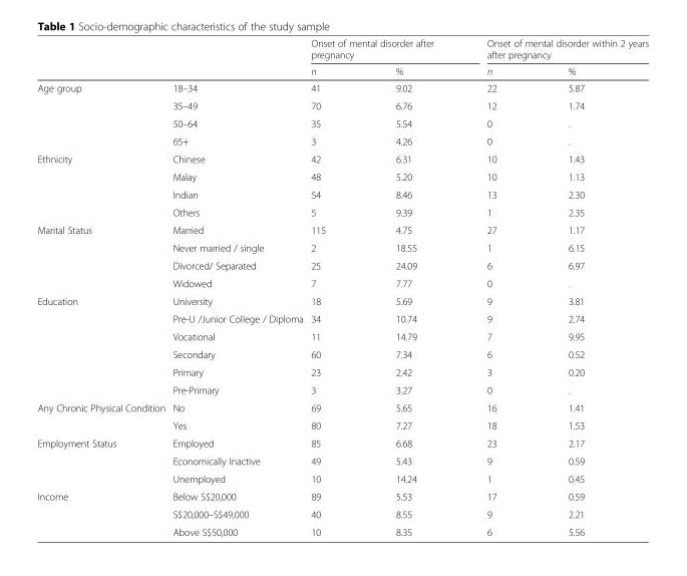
<table><thead><tr><td rowspan="2"></td><td rowspan="2"></td><td colspan="2">Onset of mental disorder after pregnancy</td><td colspan="2">Onset of mental disorder within 2 years after pregnancy</td></tr><tr><td>n</td><td>%</td><td>n</td><td>%</td></tr></thead><tbody><tr><td rowspan="4">Age group</td><td>18–34</td><td>41</td><td>9.02</td><td>22</td><td>5.87</td></tr><tr><td>35–49</td><td>70</td><td>6.76</td><td>12</td><td>1.74</td></tr><tr><td>50–64</td><td>35</td><td>5.54</td><td>0</td><td>.</td></tr><tr><td>65+</td><td>3</td><td>4.26</td><td>0</td><td>.</td></tr><tr><td rowspan="4">Ethnicity</td><td>Chinese</td><td>42</td><td>6.31</td><td>10</td><td>1.43</td></tr><tr><td>Malay</td><td>48</td><td>5.20</td><td>10</td><td>1.13</td></tr><tr><td>Indian</td><td>54</td><td>8.46</td><td>13</td><td>2.30</td></tr><tr><td>Others</td><td>5</td><td>9.39</td><td>1</td><td>2.35</td></tr><tr><td rowspan="4">Marital Status</td><td>Married</td><td>115</td><td>4.75</td><td>27</td><td>1.17</td></tr><tr><td>Never married / single</td><td>2</td><td>18.55</td><td>1</td><td>6.15</td></tr><tr><td>Divorced/ Separated</td><td>25</td><td>24.09</td><td>6</td><td>6.97</td></tr><tr><td>Widowed</td><td>7</td><td>7.77</td><td>0</td><td>.</td></tr><tr><td rowspan="6">Education</td><td>University</td><td>18</td><td>5.69</td><td>9</td><td>3.81</td></tr><tr><td>Pre-U /Junior College / Diploma</td><td>34</td><td>10.74</td><td>9</td><td>2.74</td></tr><tr><td>Vocational</td><td>11</td><td>14.79</td><td>7</td><td>9.95</td></tr><tr><td>Secondary</td><td>60</td><td>7.34</td><td>6</td><td>0.52</td></tr><tr><td>Primary</td><td>23</td><td>2.42</td><td>3</td><td>0.20</td></tr><tr><td>Pre-Primary</td><td>3</td><td>3.27</td><td>0</td><td>.</td></tr><tr><td rowspan="2">Any Chronic Physical Condition</td><td>No</td><td>69</td><td>5.65</td><td>16</td><td>1.41</td></tr><tr><td>Yes</td><td>80</td><td>7.27</td><td>18</td><td>1.53</td></tr><tr><td rowspan="3">Employment Status</td><td>Employed</td><td>85</td><td>6.68</td><td>23</td><td>2.17</td></tr><tr><td>Economically Inactive</td><td>49</td><td>5.43</td><td>9</td><td>0.59</td></tr><tr><td>Unemployed</td><td>10</td><td>14.24</td><td>1</td><td>0.45</td></tr><tr><td rowspan="3">Income</td><td>Below S$20,000</td><td>89</td><td>5.53</td><td>17</td><td>0.59</td></tr><tr><td>S$20,000–S$49,000</td><td>40</td><td>8.55</td><td>9</td><td>2.21</td></tr><tr><td>Above S$50,000</td><td>10</td><td>8.35</td><td>6</td><td>5.56</td></tr></tbody></table>